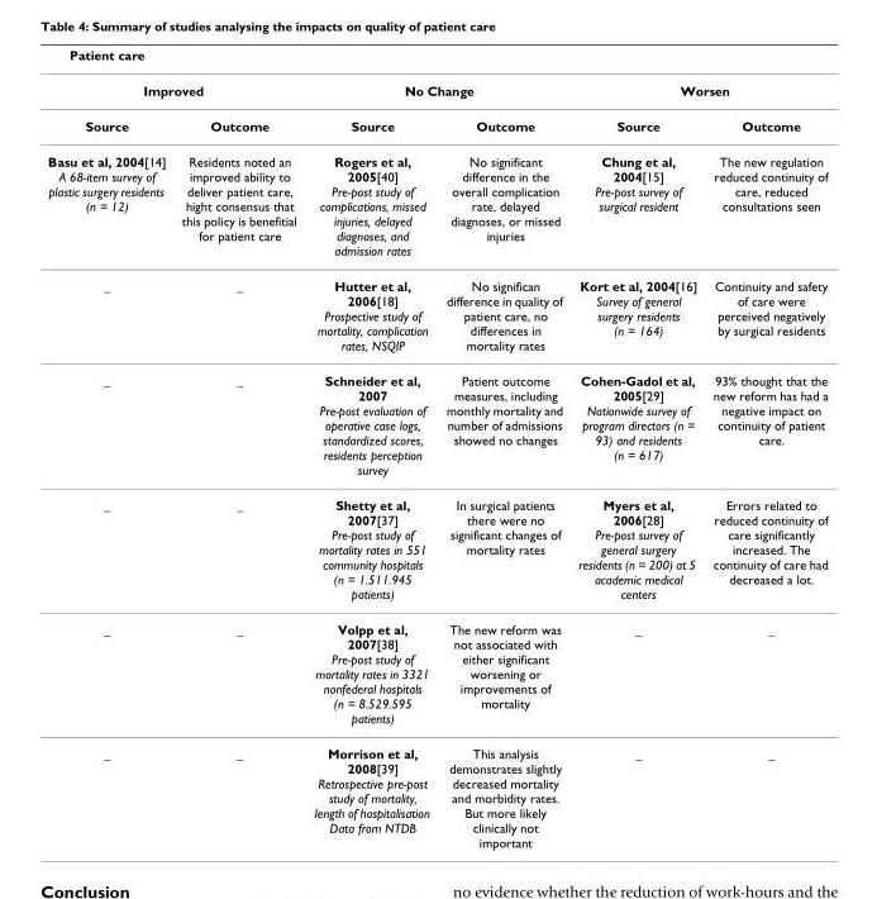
<table><thead><tr><td>Patient care</td><td></td><td></td><td></td><td></td><td></td></tr></thead><tbody><tr><td colspan="2">Improved</td><td colspan="2">No Change</td><td colspan="2">Worsen</td></tr><tr><td>Source</td><td>Outcome</td><td>Source</td><td>Outcome</td><td>Source</td><td>Outcome</td></tr><tr><td>Basu et al, 2004[14] A 68-item survey of plastic surgery residents (n = 12)</td><td>Residents noted an improved ability to deliver patient care, hight consensus that this policy is benefitial for patient care</td><td>Rogers et al, 2005[40] Pre-post study of complications, missed injuries, delayed diagnoses, and admission rates</td><td>No significant difference in the overall complication rate, delayed diagnoses, or missed injuries</td><td>Chung et al, 2004[15] Pre-post survey of surgical resident</td><td>The new regulation reduced continuity of care, reduced consultations seen</td></tr><tr><td>_</td><td>_</td><td>Hutter et al, 2006[18] Prospective study of mortality, complication rates, NSQIP</td><td>No significan difference in quality of patient care, no differences in mortality rates</td><td>Kort et al, 2004[16] Survey of general surgery residents (n = 164)</td><td>Continuity and safety of care were perceived negatively by surgical residents</td></tr><tr><td>_</td><td>_</td><td>Schneider et al, 2007 Pre-post evaluation of operative case logs, standardized scores, residents perception survey</td><td>Patient outcome measures, including monthly mortality and number of admissions showed no changes</td><td>Cohen-Gadol et al, 2005[29] Nationwide survey of program directors (n = 93) and residents (n = 617)</td><td>93% thought that the new reform has had a negative impact on continuity of patient care.</td></tr><tr><td>_</td><td>_</td><td>Shetty et al, 2007[37] Pre-post study of mortality rates in 551 community hospitals (n = 1.511.945 patients)</td><td>In surgical patients there were no significant changes of mortality rates</td><td>Myers et al, 2006[28] Pre-post survey of general surgery residents (n = 200) at 5 academic medical centers</td><td>Errors related to reduced continuity of care significantly increased. The continuity of care had decreased a lot.</td></tr><tr><td>_</td><td>_</td><td>Volpp et al, 2007[38] Pre-post study of mortality rates in 3321 nonfederal hospitals (n = 8.529.595 patients)</td><td>The new reform was not associated with either significant worsening or improvements of mortality</td><td>_</td><td>_</td></tr><tr><td>_</td><td>_</td><td>Morrison et al, 2008[39] Retrospective pre-post study of mortality, length of hospitalisation Data from NTDB</td><td>This analysis demonstrates slightly decreased mortality and morbidity rates. But more likely clinically not important</td><td>_</td><td>_</td></tr></tbody></table>